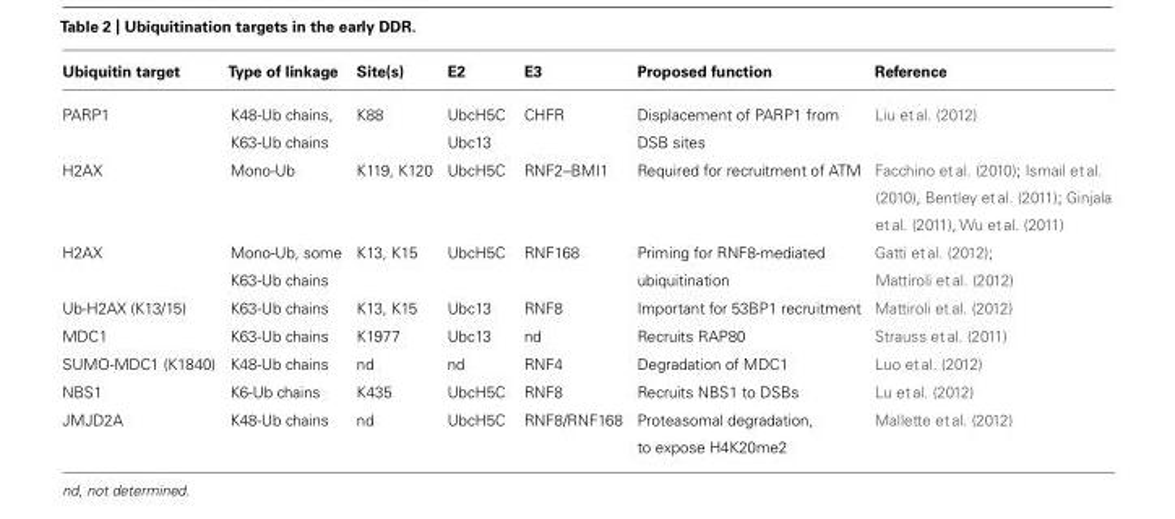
<table><thead><tr><td>Ubiquitin target</td><td>Type of linkage</td><td>Site(s)</td><td>E2</td><td>E3</td><td>Proposed function</td><td>Reference</td></tr></thead><tbody><tr><td>PARP1</td><td>K48-Ub chains, K63-Ub chains</td><td>K88</td><td>UbcH5C Ubc13</td><td>CHFR</td><td>Displacement of PARP1 from DSB sites</td><td>Liu et al. (2012)</td></tr><tr><td>H2AX</td><td>Mono-Ub</td><td>K119, K120</td><td>UbcH5C</td><td>RNF2–BMI1</td><td>Required for recruitment of ATM</td><td>Facchino et al. (2010); Ismail et al. (2010), Bentley et al. (2011); Ginjala et al. (2011), Wu et al. (2011)</td></tr><tr><td>H2AX</td><td>Mono-Ub, some K63-Ub chains</td><td>K13, K15</td><td>UbcH5C</td><td>RNF168</td><td>Priming for RNF8-mediated ubiquitination</td><td>Gatti et al. (2012); Mattiroli et al. (2012)</td></tr><tr><td>Ub-H2AX (K13/15)</td><td>K63-Ub chains</td><td>K13, K15</td><td>Ubc13</td><td>RNF8</td><td>Important for 53BP1 recruitment</td><td>Mattiroli et al. (2012)</td></tr><tr><td>MDC1</td><td>K63-Ub chains</td><td>K1977</td><td>Ubc13</td><td>nd</td><td>Recruits RAP80</td><td>Strauss et al. (2011)</td></tr><tr><td>SUMO-MDC1 (K1840)</td><td>K48-Ub chains</td><td>nd</td><td>nd</td><td>RNF4</td><td>Degradation of MDC1</td><td>Luo et al. (2012)</td></tr><tr><td>NBS1</td><td>K6-Ub chains</td><td>K435</td><td>UbcH5C</td><td>RNF8</td><td>Recruits NBS1 to DSBs</td><td>Lu et al. (2012)</td></tr><tr><td>JMJD2A</td><td>K48-Ub chains</td><td>nd</td><td>UbcH5C</td><td>RNF8/RNF168</td><td>Proteasomal degradation, to expose H4K20me2</td><td>Mallette et al. (2012)</td></tr></tbody></table>